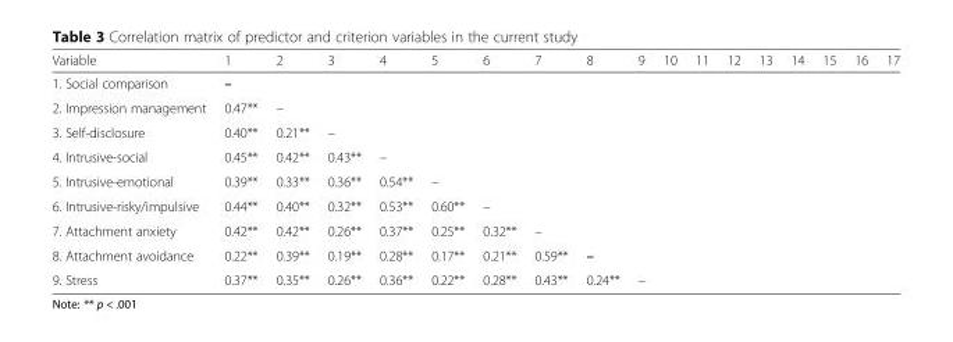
<table><thead><tr><td>Variable</td><td>1</td><td>2</td><td>3</td><td>4</td><td>5</td><td>6</td><td>7</td><td>8</td><td>9</td><td>10</td><td>11</td><td>12</td><td>13</td><td>14</td><td>15</td><td>16</td><td>17</td></tr></thead><tbody><tr><td>1. Social comparison</td><td>–</td><td></td><td></td><td></td><td></td><td></td><td></td><td></td><td></td><td></td><td></td><td></td><td></td><td></td><td></td><td></td><td></td></tr><tr><td>2. Impression management</td><td>0.47**</td><td>–</td><td></td><td></td><td></td><td></td><td></td><td></td><td></td><td></td><td></td><td></td><td></td><td></td><td></td><td></td><td></td></tr><tr><td>3. Self-disclosure</td><td>0.40**</td><td>0.21**</td><td>–</td><td></td><td></td><td></td><td></td><td></td><td></td><td></td><td></td><td></td><td></td><td></td><td></td><td></td><td></td></tr><tr><td>4. Intrusive-social</td><td>0.45**</td><td>0.42**</td><td>0.43**</td><td>–</td><td></td><td></td><td></td><td></td><td></td><td></td><td></td><td></td><td></td><td></td><td></td><td></td><td></td></tr><tr><td>5. Intrusive-emotional</td><td>0.39**</td><td>0.33**</td><td>0.36**</td><td>0.54**</td><td>–</td><td></td><td></td><td></td><td></td><td></td><td></td><td></td><td></td><td></td><td></td><td></td><td></td></tr><tr><td>6. Intrusive-risky/impulsive</td><td>0.44**</td><td>0.40**</td><td>0.32**</td><td>0.53**</td><td>0.60**</td><td>–</td><td></td><td></td><td></td><td></td><td></td><td></td><td></td><td></td><td></td><td></td><td></td></tr><tr><td>7. Attachment anxiety</td><td>0.42**</td><td>0.42**</td><td>0.26**</td><td>0.37**</td><td>0.25**</td><td>0.32**</td><td>–</td><td></td><td></td><td></td><td></td><td></td><td></td><td></td><td></td><td></td><td></td></tr><tr><td>8. Attachment avoidance</td><td>0.22**</td><td>0.39**</td><td>0.19**</td><td>0.28**</td><td>0.17**</td><td>0.21**</td><td>0.59**</td><td>–</td><td></td><td></td><td></td><td></td><td></td><td></td><td></td><td></td><td></td></tr><tr><td>9. Stress</td><td>0.37**</td><td>0.35**</td><td>0.26**</td><td>0.36**</td><td>0.22**</td><td>0.28**</td><td>0.43**</td><td>0.24**</td><td>–</td><td></td><td></td><td></td><td></td><td></td><td></td><td></td><td></td></tr></tbody></table>